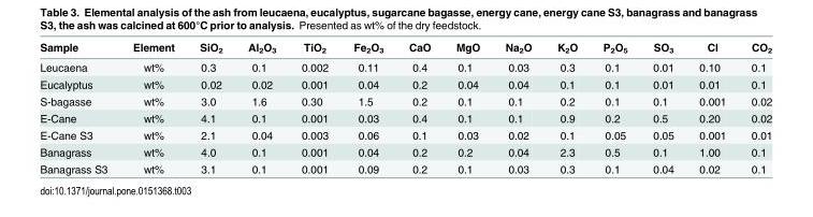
<table><thead><tr><td>Sample</td><td>Element</td><td>SiO<sub>2</sub></td><td>Al<sub>2</sub>O<sub>3</sub></td><td>TiO<sub>2</sub></td><td>Fe<sub>2</sub>O<sub>3</sub></td><td>CaO</td><td>MgO</td><td>Na<sub>2</sub>O</td><td>K<sub>2</sub>O</td><td>P<sub>2</sub>O<sub>5</sub></td><td>SO<sub>3</sub></td><td>Cl</td><td>CO<sub>2</sub></td></tr></thead><tbody><tr><td>Leucaena</td><td>wt%</td><td>0.3</td><td>0.1</td><td>0.002</td><td>0.11</td><td>0.4</td><td>0.1</td><td>0.03</td><td>0.3</td><td>0.1</td><td>0.01</td><td>0.10</td><td>0.1</td></tr><tr><td>Eucalyptus</td><td>wt%</td><td>0.02</td><td>0.02</td><td>0.001</td><td>0.04</td><td>0.2</td><td>0.04</td><td>0.04</td><td>0.1</td><td>0.1</td><td>0.01</td><td>0.01</td><td>0.1</td></tr><tr><td>S-bagasse</td><td>wt%</td><td>3.0</td><td>1.6</td><td>0.30</td><td>1.5</td><td>0.2</td><td>0.1</td><td>0.1</td><td>0.2</td><td>0.1</td><td>0.1</td><td>0.001</td><td>0.02</td></tr><tr><td>E-Cane</td><td>wt%</td><td>4.1</td><td>0.1</td><td>0.001</td><td>0.03</td><td>0.4</td><td>0.1</td><td>0.1</td><td>0.9</td><td>0.2</td><td>0.5</td><td>0.20</td><td>0.02</td></tr><tr><td>E-Cane S3</td><td>wt%</td><td>2.1</td><td>0.04</td><td>0.003</td><td>0.06</td><td>0.1</td><td>0.03</td><td>0.02</td><td>0.1</td><td>0.05</td><td>0.05</td><td>0.001</td><td>0.01</td></tr><tr><td>Banagrass</td><td>wt%</td><td>4.0</td><td>0.1</td><td>0.001</td><td>0.04</td><td>0.2</td><td>0.2</td><td>0.04</td><td>2.3</td><td>0.5</td><td>0.1</td><td>1.00</td><td>0.1</td></tr><tr><td>Banagrass S3</td><td>wt%</td><td>3.1</td><td>0.1</td><td>0.001</td><td>0.09</td><td>0.2</td><td>0.1</td><td>0.03</td><td>0.3</td><td>0.1</td><td>0.04</td><td>0.02</td><td>0.1</td></tr></tbody></table>